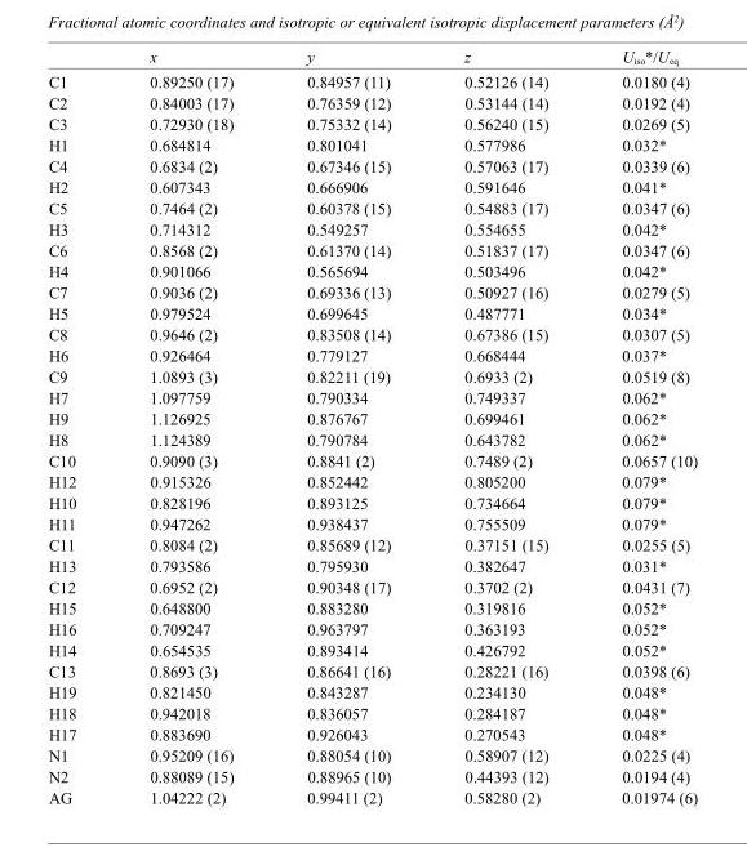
<table><thead><tr><td></td><td>x</td><td>y</td><td>z</td><td>U<sub>iso</sub>*/U<sub>eq</sub></td></tr></thead><tbody><tr><td>C1</td><td>0.89250 (17)</td><td>0.84957 (11)</td><td>0.52126 (14)</td><td>0.0180 (4)</td></tr><tr><td>C2</td><td>0.84003 (17)</td><td>0.76359 (12)</td><td>0.53144 (14)</td><td>0.0192 (4)</td></tr><tr><td>C3</td><td>0.72930 (18)</td><td>0.75332 (14)</td><td>0.56240 (15)</td><td>0.0269 (5)</td></tr><tr><td>H1</td><td>0.684814</td><td>0.801041</td><td>0.577986</td><td>0.032*</td></tr><tr><td>C4</td><td>0.6834 (2)</td><td>0.67346 (15)</td><td>0.57063 (17)</td><td>0.0339 (6)</td></tr><tr><td>H2</td><td>0.607343</td><td>0.666906</td><td>0.591646</td><td>0.041*</td></tr><tr><td>C5</td><td>0.7464 (2)</td><td>0.60378 (15)</td><td>0.54883 (17)</td><td>0.0347 (6)</td></tr><tr><td>H3</td><td>0.714312</td><td>0.549257</td><td>0.554655</td><td>0.042*</td></tr><tr><td>C6</td><td>0.8568 (2)</td><td>0.61370 (14)</td><td>0.51837 (17)</td><td>0.0347 (6)</td></tr><tr><td>H4</td><td>0.901066</td><td>0.565694</td><td>0.503496</td><td>0.042*</td></tr><tr><td>C7</td><td>0.9036 (2)</td><td>0.69336 (13)</td><td>0.50927 (16)</td><td>0.0279 (5)</td></tr><tr><td>H5</td><td>0.979524</td><td>0.699645</td><td>0.487771</td><td>0.034*</td></tr><tr><td>C8</td><td>0.9646 (2)</td><td>0.83508 (14)</td><td>0.67386 (15)</td><td>0.0307 (5)</td></tr><tr><td>H6</td><td>0.926464</td><td>0.779127</td><td>0.668444</td><td>0.037*</td></tr><tr><td>C9</td><td>1.0893 (3)</td><td>0.82211 (19)</td><td>0.6933 (2)</td><td>0.0519 (8)</td></tr><tr><td>H7</td><td>1.097759</td><td>0.790334</td><td>0.749337</td><td>0.062*</td></tr><tr><td>H9</td><td>1.126925</td><td>0.876767</td><td>0.699461</td><td>0.062*</td></tr><tr><td>H8</td><td>1.124389</td><td>0.790784</td><td>0.643782</td><td>0.062*</td></tr><tr><td>C10</td><td>0.9090 (3)</td><td>0.8841 (2)</td><td>0.7489 (2)</td><td>0.0657 (10)</td></tr><tr><td>H12</td><td>0.915326</td><td>0.852442</td><td>0.805200</td><td>0.079*</td></tr><tr><td>H10</td><td>0.828196</td><td>0.893125</td><td>0.734664</td><td>0.079*</td></tr><tr><td>H11</td><td>0.947262</td><td>0.938437</td><td>0.755509</td><td>0.079*</td></tr><tr><td>C11</td><td>0.8084 (2)</td><td>0.85689 (12)</td><td>0.37151 (15)</td><td>0.0255 (5)</td></tr><tr><td>H13</td><td>0.793586</td><td>0.795930</td><td>0.382647</td><td>0.031*</td></tr><tr><td>C12</td><td>0.6952 (2)</td><td>0.90348 (17)</td><td>0.3702 (2)</td><td>0.0431 (7)</td></tr><tr><td>H15</td><td>0.648800</td><td>0.883280</td><td>0.319816</td><td>0.052*</td></tr><tr><td>H16</td><td>0.709247</td><td>0.963797</td><td>0.363193</td><td>0.052*</td></tr><tr><td>H14</td><td>0.654535</td><td>0.893414</td><td>0.426792</td><td>0.052*</td></tr><tr><td>C13</td><td>0.8693 (3)</td><td>0.86641 (16)</td><td>0.28221 (16)</td><td>0.0398 (6)</td></tr><tr><td>H19</td><td>0.821450</td><td>0.843287</td><td>0.234130</td><td>0.048*</td></tr><tr><td>H18</td><td>0.942018</td><td>0.836057</td><td>0.284187</td><td>0.048*</td></tr><tr><td>H17</td><td>0.883690</td><td>0.926043</td><td>0.270543</td><td>0.048*</td></tr><tr><td>N1</td><td>0.95209 (16)</td><td>0.88054 (10)</td><td>0.58907 (12)</td><td>0.0225 (4)</td></tr><tr><td>N2</td><td>0.88089 (15)</td><td>0.88965 (10)</td><td>0.44393 (12)</td><td>0.0194 (4)</td></tr><tr><td>AG</td><td>1.04222 (2)</td><td>0.99411 (2)</td><td>0.58280 (2)</td><td>0.01974 (6)</td></tr></tbody></table>